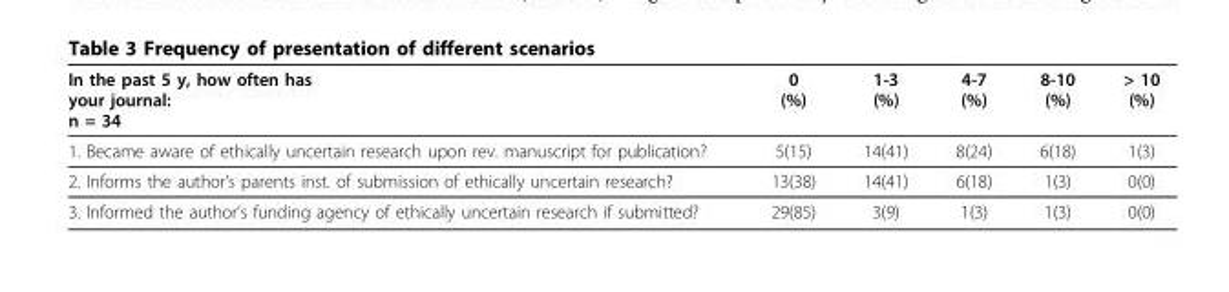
<table><thead><tr><td>In the past 5 y, how often has your journal: n = 34</td><td>0 (%)</td><td>1-3 (%)</td><td>4-7 (%)</td><td>8-10 (%)</td><td>&gt; 10 (%)</td></tr></thead><tbody><tr><td>1. Became aware of ethically uncertain research upon rev. manuscript for publication?</td><td>5(15)</td><td>14(41)</td><td>8(24)</td><td>6(18)</td><td>1(3)</td></tr><tr><td>2. Informs the author’s parents inst. of submission of ethically uncertain research?</td><td>13(38)</td><td>14(41)</td><td>6(18)</td><td>1(3)</td><td>0(0)</td></tr><tr><td>3. Informed the author’s funding agency of ethically uncertain research if submitted?</td><td>29(85)</td><td>3(9)</td><td>1(3)</td><td>1(3)</td><td>0(0)</td></tr></tbody></table>